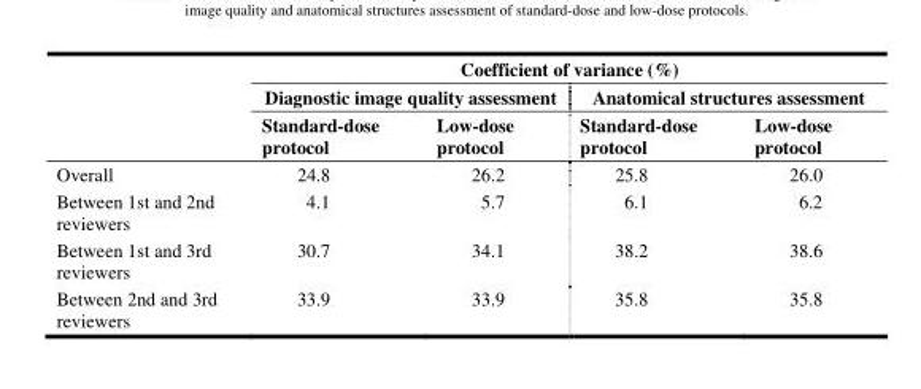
<table><thead><tr><td rowspan="3"></td><td colspan="4">Coefficient of variance (%)</td></tr><tr><td colspan="2">Diagnostic image quality assessment</td><td colspan="2">Anatomical structures assessment</td></tr><tr><td>Standard-dose protocol</td><td>Low-dose protocol</td><td>Standard-dose protocol</td><td>Low-dose protocol</td></tr></thead><tbody><tr><td>Overall</td><td>24.8</td><td>26.2</td><td>25.8</td><td>26.0</td></tr><tr><td>Between 1st and 2nd reviewers</td><td>4.1</td><td>5.7</td><td>6.1</td><td>6.2</td></tr><tr><td>Between 1st and 3rd reviewers</td><td>30.7</td><td>34.1</td><td>38.2</td><td>38.6</td></tr><tr><td>Between 2nd and 3rd reviewers</td><td>33.9</td><td>33.9</td><td>35.8</td><td>35.8</td></tr></tbody></table>